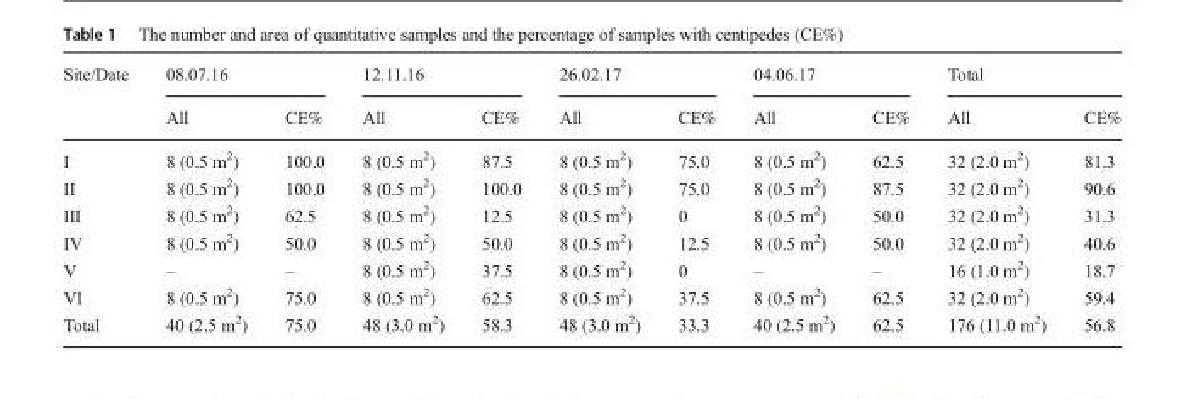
<table><thead><tr><td rowspan="2">Site/Date</td><td colspan="2">08.07.16</td><td colspan="2">12.11.16</td><td colspan="2">26.02.17</td><td colspan="2">04.06.17</td><td colspan="2">Total</td></tr><tr><td>All</td><td>CE%</td><td>All</td><td>CE%</td><td>All</td><td>CE%</td><td>All</td><td>CE%</td><td>All</td><td>CE%</td></tr></thead><tbody><tr><td>I</td><td>8 (0.5 m<sup>2</sup>)</td><td>100.0</td><td>8 (0.5 m<sup>2</sup>)</td><td>87.5</td><td>8 (0.5 m<sup>2</sup>)</td><td>75.0</td><td>8 (0.5 m<sup>2</sup>)</td><td>62.5</td><td>32 (2.0 m<sup>2</sup>)</td><td>81.3</td></tr><tr><td>II</td><td>8 (0.5 m<sup>2</sup>)</td><td>100.0</td><td>8 (0.5 m<sup>2</sup>)</td><td>100.0</td><td>8 (0.5 m<sup>2</sup>)</td><td>75.0</td><td>8 (0.5 m<sup>2</sup>)</td><td>87.5</td><td>32 (2.0 m<sup>2</sup>)</td><td>90.6</td></tr><tr><td>III</td><td>8 (0.5 m<sup>2</sup>)</td><td>62.5</td><td>8 (0.5 m<sup>2</sup>)</td><td>12.5</td><td>8 (0.5 m<sup>2</sup>)</td><td>0</td><td>8 (0.5 m<sup>2</sup>)</td><td>50.0</td><td>32 (2.0 m<sup>2</sup>)</td><td>31.3</td></tr><tr><td>IV</td><td>8 (0.5 m<sup>2</sup>)</td><td>50.0</td><td>8 (0.5 m<sup>2</sup>)</td><td>50.0</td><td>8 (0.5 m<sup>2</sup>)</td><td>12.5</td><td>8 (0.5 m<sup>2</sup>)</td><td>50.0</td><td>32 (2.0 m<sup>2</sup>)</td><td>40.6</td></tr><tr><td>V</td><td>–</td><td>–</td><td>8 (0.5 m<sup>2</sup>)</td><td>37.5</td><td>8 (0.5 m<sup>2</sup>)</td><td>0</td><td>–</td><td>–</td><td>16 (1.0 m<sup>2</sup>)</td><td>18.7</td></tr><tr><td>VI</td><td>8 (0.5 m<sup>2</sup>)</td><td>75.0</td><td>8 (0.5 m<sup>2</sup>)</td><td>62.5</td><td>8 (0.5 m<sup>2</sup>)</td><td>37.5</td><td>8 (0.5 m<sup>2</sup>)</td><td>62.5</td><td>32 (2.0 m<sup>2</sup>)</td><td>59.4</td></tr><tr><td>Total</td><td>40 (2.5 m<sup>2</sup>)</td><td>75.0</td><td>48 (3.0 m<sup>2</sup>)</td><td>58.3</td><td>48 (3.0 m<sup>2</sup>)</td><td>33.3</td><td>40 (2.5 m<sup>2</sup>)</td><td>62.5</td><td>176 (11.0 m<sup>2</sup>)</td><td>56.8</td></tr></tbody></table>